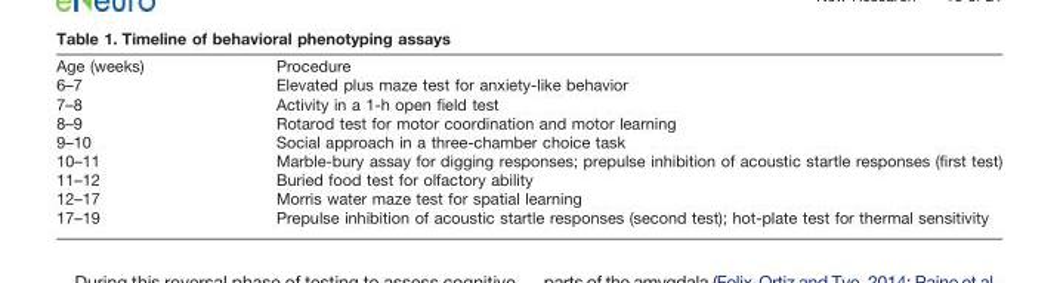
<table><thead><tr><td>Age (weeks)</td><td>Procedure</td></tr></thead><tbody><tr><td>6–7</td><td>Elevated plus maze test for anxiety-like behavior</td></tr><tr><td>7–8</td><td>Activity in a 1-h open field test</td></tr><tr><td>8–9</td><td>Rotarod test for motor coordination and motor learning</td></tr><tr><td>9–10</td><td>Social approach in a three-chamber choice task</td></tr><tr><td>10–11</td><td>Marble-bury assay for digging responses; prepulse inhibition of acoustic startle responses (first test)</td></tr><tr><td>11–12</td><td>Buried food test for olfactory ability</td></tr><tr><td>12–17</td><td>Morris water maze test for spatial learning</td></tr><tr><td>17–19</td><td>Prepulse inhibition of acoustic startle responses (second test); hot-plate test for thermal sensitivity</td></tr></tbody></table>